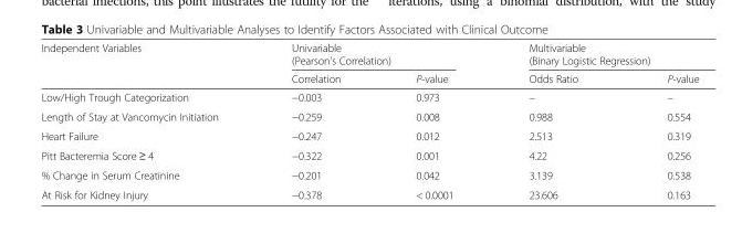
<table><thead><tr><td rowspan="2">Independent Variables</td><td colspan="2">Univariable (Pearson’s Correlation)</td><td colspan="2">Multivariable (Binary Logistic Regression)</td></tr><tr><td>Correlation</td><td>P-value</td><td>Odds Ratio</td><td>P-value</td></tr></thead><tbody><tr><td>Low/High Trough Categorization</td><td>−0.003</td><td>0.973</td><td>–</td><td>–</td></tr><tr><td>Length of Stay at Vancomycin Initiation</td><td>−0.259</td><td>0.008</td><td>0.988</td><td>0.554</td></tr><tr><td>Heart Failure</td><td>−0.247</td><td>0.012</td><td>2.513</td><td>0.319</td></tr><tr><td>Pitt Bacteremia Score ≥ 4</td><td>−0.322</td><td>0.001</td><td>4.22</td><td>0.256</td></tr><tr><td>% Change in Serum Creatinine</td><td>−0.201</td><td>0.042</td><td>3.139</td><td>0.538</td></tr><tr><td>At Risk for Kidney Injury</td><td>−0.378</td><td>&lt; 0.0001</td><td>23.606</td><td>0.163</td></tr></tbody></table>